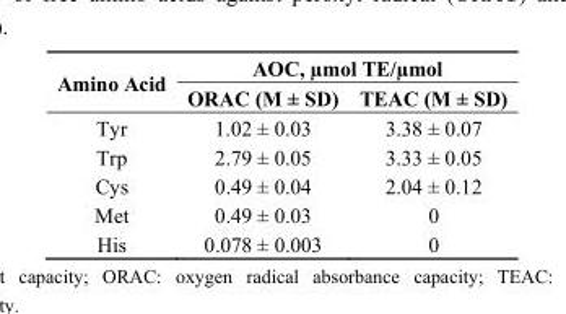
<table><thead><tr><td rowspan="2">Amino Acid</td><td colspan="2">AOC, µmol TE/µmol</td></tr><tr><td>ORAC (M ± SD)</td><td>TEAC (M ± SD)</td></tr></thead><tbody><tr><td>Tyr</td><td>1.02 ± 0.03</td><td>3.38 ± 0.07</td></tr><tr><td>Trp</td><td>2.79 ± 0.05</td><td>3.33 ± 0.05</td></tr><tr><td>Cys</td><td>0.49 ± 0.04</td><td>2.04 ± 0.12</td></tr><tr><td>Met</td><td>0.49 ± 0.03</td><td>0</td></tr><tr><td>His</td><td>0.078 ± 0.003</td><td>0</td></tr></tbody></table>